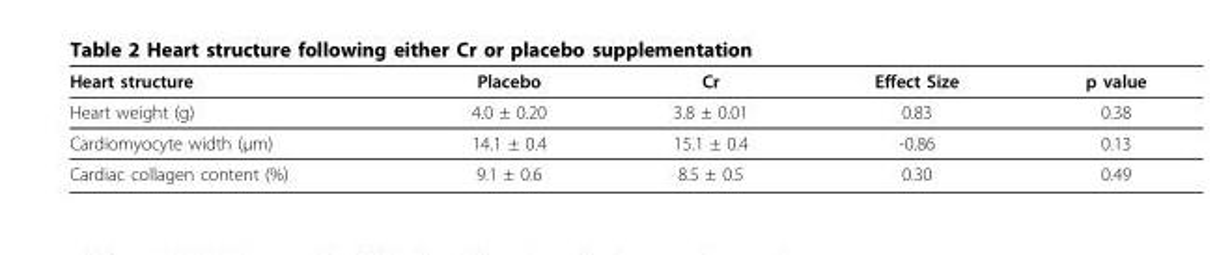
<table><thead><tr><td>Heart structure</td><td>Placebo</td><td>Cr</td><td>Effect Size</td><td>p value</td></tr></thead><tbody><tr><td>Heart weight (g)</td><td>4.0 ± 0.20</td><td>3.8 ± 0.01</td><td>0.83</td><td>0.38</td></tr><tr><td>Cardiomyocyte width (μm)</td><td>14.1 ± 0.4</td><td>15.1 ± 0.4</td><td>-0.86</td><td>0.13</td></tr><tr><td>Cardiac collagen content (%)</td><td>9.1 ± 0.6</td><td>8.5 ± 0.5</td><td>0.30</td><td>0.49</td></tr></tbody></table>